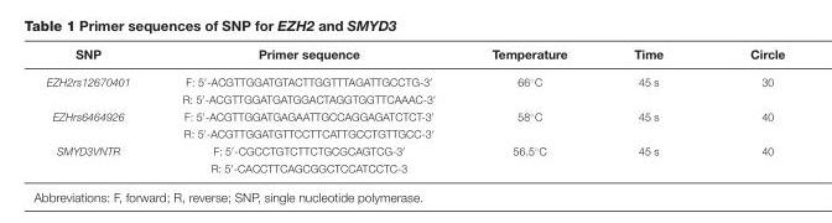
<table><thead><tr><td>SNP</td><td>Primer sequence</td><td>Temperature</td><td>Time</td><td>Circle</td></tr></thead><tbody><tr><td rowspan="2">EZH2rs12670401</td><td>F: 5′-ACGTTGGATGTACTTGGTTTAGATTGCCTG-3′</td><td>66◦C</td><td>45 s</td><td>30</td></tr><tr><td>R: 5′-ACGTTGGATGATGGACTAGGTGGTTCAAAC-3′</td><td></td><td></td><td></td></tr><tr><td rowspan="2">EZHrs6464926</td><td>F: 5′-ACGTTGGATGAGAATTGCCAGGAGATCTCT-3′</td><td>58◦C</td><td>45 s</td><td>40</td></tr><tr><td>R: 5′-ACGTTGGATGTTCCTTCATTGCCTGTTGCC-3′</td><td></td><td></td><td></td></tr><tr><td rowspan="2">SMYD3VNTR</td><td>F: 5′-CGCCTGTCTTCTGCGCAGTCG-3′</td><td>56.5◦C</td><td>45 s</td><td>40</td></tr><tr><td>R: 5′-CACCTTCAGCGGCTCCATCCTC-3</td><td></td><td></td><td></td></tr></tbody></table>